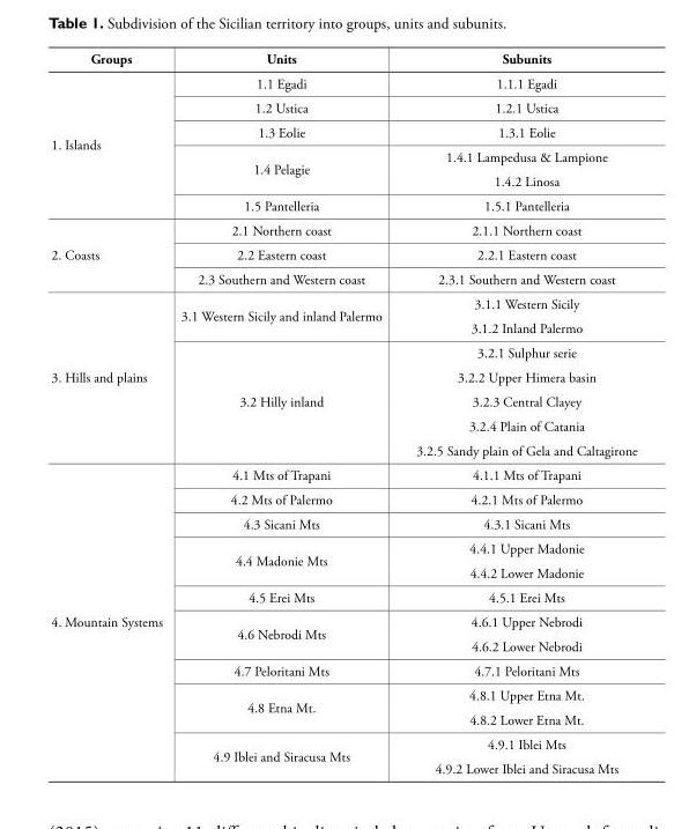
<table><thead><tr><td>Groups</td><td>Units</td><td>Subunits</td></tr></thead><tbody><tr><td rowspan="6">1. Islands</td><td>1.1 Egadi</td><td>1.1.1 Egadi</td></tr><tr><td>1.2 Ustica</td><td>1.2.1 Ustica</td></tr><tr><td>1.3 Eolie</td><td>1.3.1 Eolie</td></tr><tr><td rowspan="2">1.4 Pelagie</td><td>1.4.1 Lampedusa &amp; Lampione</td></tr><tr><td>1.4.2 Linosa</td></tr><tr><td>1.5 Pantelleria</td><td>1.5.1 Pantelleria</td></tr><tr><td rowspan="3">2. Coasts</td><td>2.1 Northern coast</td><td>2.1.1 Northern coast</td></tr><tr><td>2.2 Eastern coast</td><td>2.2.1 Eastern coast</td></tr><tr><td>2.3 Southern and Western coast</td><td>2.3.1 Southern and Western coast</td></tr><tr><td rowspan="7">3. Hills and plains</td><td rowspan="2">3.1 Western Sicily and inland Palermo</td><td>3.1.1 Western Sicily</td></tr><tr><td>3.1.2 Inland Palermo</td></tr><tr><td rowspan="5">3.2 Hilly inland</td><td>3.2.1 Sulphur serie</td></tr><tr><td>3.2.2 Upper Himera basin</td></tr><tr><td>3.2.3 Central Clayey</td></tr><tr><td>3.2.4 Plain of Catania</td></tr><tr><td>3.2.5 Sandy plain of Gela and Caltagirone</td></tr><tr><td rowspan="13">4. Mountain Systems</td><td>4.1 Mts of Trapani</td><td>4.1.1 Mts of Trapani</td></tr><tr><td>4.2 Mts of Palermo</td><td>4.2.1 Mts of Palermo</td></tr><tr><td>4.3 Sicani Mts</td><td>4.3.1 Sicani Mts</td></tr><tr><td rowspan="2">4.4 Madonie Mts</td><td>4.4.1 Upper Madonie</td></tr><tr><td>4.4.2 Lower Madonie</td></tr><tr><td>4.5 Erei Mts</td><td>4.5.1 Erei Mts</td></tr><tr><td rowspan="2">4.6 Nebrodi Mts</td><td>4.6.1 Upper Nebrodi</td></tr><tr><td>4.6.2 Lower Nebrodi</td></tr><tr><td>4.7 Peloritani Mts</td><td>4.7.1 Peloritani Mts</td></tr><tr><td rowspan="2">4.8 Etna Mt.</td><td>4.8.1 Upper Etna Mt.</td></tr><tr><td>4.8.2 Lower Etna Mt.</td></tr><tr><td rowspan="2">4.9 Iblei and Siracusa Mts</td><td>4.9.1 Iblei Mts</td></tr><tr><td>4.9.2 Lower Iblei and Siracusa Mts</td></tr></tbody></table>